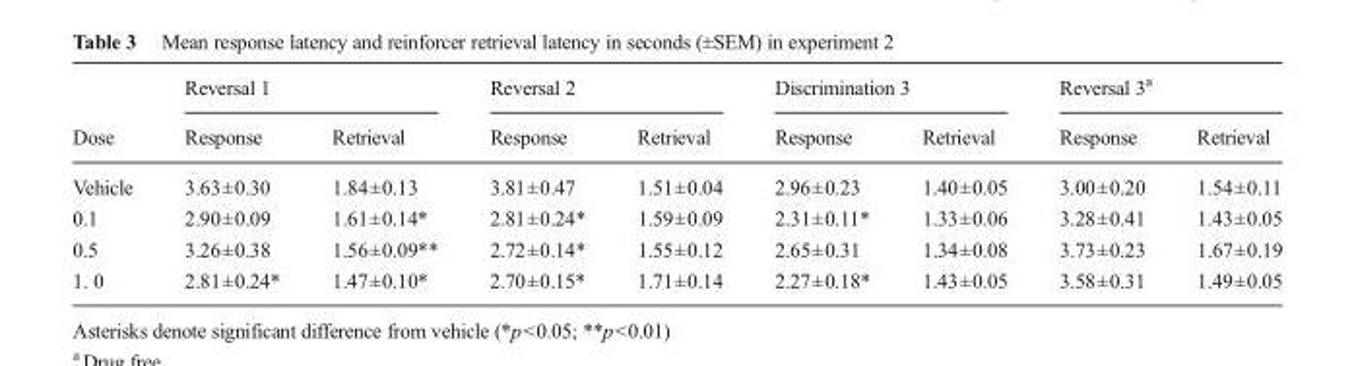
<table><thead><tr><td rowspan="2">Dose</td><td colspan="2">Reversal 1</td><td colspan="2">Reversal 2</td><td colspan="2">Discrimination 3</td><td colspan="2">Reversal 3<sup>a</sup></td></tr><tr><td>Response</td><td>Retrieval</td><td>Response</td><td>Retrieval</td><td>Response</td><td>Retrieval</td><td>Response</td><td>Retrieval</td></tr></thead><tbody><tr><td>Vehicle</td><td>3.63±0.30</td><td>1.84±0.13</td><td>3.81±0.47</td><td>1.51±0.04</td><td>2.96±0.23</td><td>1.40±0.05</td><td>3.00±0.20</td><td>1.54±0.11</td></tr><tr><td>0.1</td><td>2.90±0.09</td><td>1.61±0.14*</td><td>2.81±0.24*</td><td>1.59±0.09</td><td>2.31±0.11*</td><td>1.33±0.06</td><td>3.28±0.41</td><td>1.43±0.05</td></tr><tr><td>0.5</td><td>3.26±0.38</td><td>1.56±0.09**</td><td>2.72±0.14*</td><td>1.55±0.12</td><td>2.65±0.31</td><td>1.34±0.08</td><td>3.73±0.23</td><td>1.67±0.19</td></tr><tr><td>1. 0</td><td>2.81±0.24*</td><td>1.47±0.10*</td><td>2.70±0.15*</td><td>1.71±0.14</td><td>2.27±0.18*</td><td>1.43±0.05</td><td>3.58±0.31</td><td>1.49±0.05</td></tr></tbody></table>